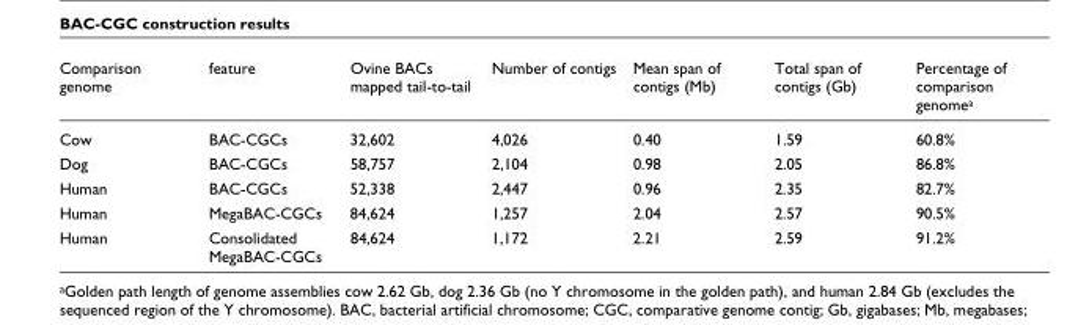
<table><thead><tr><td>Comparison genome</td><td>feature</td><td>Ovine BACs mapped tail-to-tail</td><td>Number of contigs</td><td>Mean span of contigs (Mb)</td><td>Total span of contigs (Gb)</td><td>Percentage of comparison genome<sup>a</sup></td></tr></thead><tbody><tr><td>Cow</td><td>BAC-CGCs</td><td>32,602</td><td>4,026</td><td>0.40</td><td>1.59</td><td>60.8%</td></tr><tr><td>Dog</td><td>BAC-CGCs</td><td>58,757</td><td>2,104</td><td>0.98</td><td>2.05</td><td>86.8%</td></tr><tr><td>Human</td><td>BAC-CGCs</td><td>52,338</td><td>2,447</td><td>0.96</td><td>2.35</td><td>82.7%</td></tr><tr><td>Human</td><td>MegaBAC-CGCs</td><td>84,624</td><td>1,257</td><td>2.04</td><td>2.57</td><td>90.5%</td></tr><tr><td>Human</td><td>Consolidated MegaBAC-CGCs</td><td>84,624</td><td>1,172</td><td>2.21</td><td>2.59</td><td>91.2%</td></tr></tbody></table>